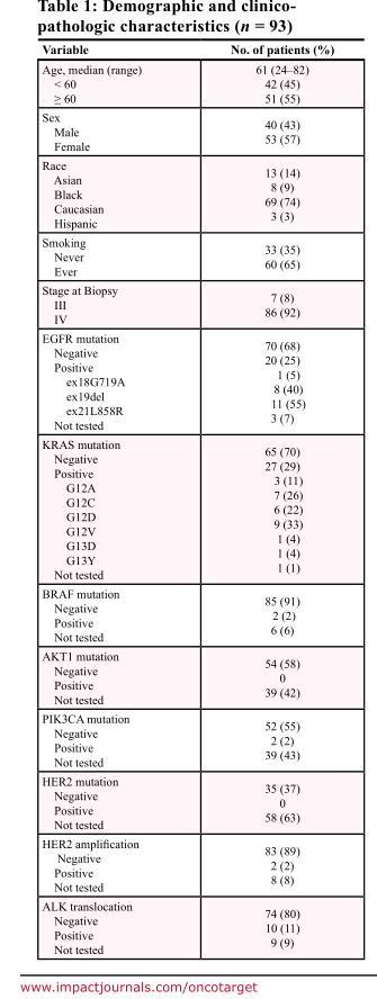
<table><thead><tr><td>Variable</td><td>No. of patients (%)</td></tr></thead><tbody><tr><td>Age, median (range) &lt; 60 ≥ 60</td><td>61 (24–82) 42 (45) 51 (55)</td></tr><tr><td>Sex Male Female</td><td>40 (43) 53 (57)</td></tr><tr><td>Race Asian Black Caucasian Hispanic</td><td>13 (14) 8 (9) 69 (74) 3 (3)</td></tr><tr><td>Smoking Never Ever</td><td>33 (35) 60 (65)</td></tr><tr><td>Stage at Biopsy III IV</td><td>7 (8) 86 (92)</td></tr><tr><td>EGFR mutation Negative Positive ex18G719A ex19del ex21L858R Not tested</td><td>70 (68) 20 (25) 1 (5) 8 (40) 11 (55) 3 (7)</td></tr><tr><td>KRAS mutation Negative Positive G12A G12C G12D G12V G13D G13Y Not tested</td><td>65 (70) 27 (29) 3 (11) 7 (26) 6 (22) 9 (33) 1 (4) 1 (4) 1 (1)</td></tr><tr><td>BRAF mutation Negative Positive Not tested</td><td>85 (91) 2 (2) 6 (6)</td></tr><tr><td>AKT1 mutation Negative Positive Not tested</td><td>54 (58) 0 39 (42)</td></tr><tr><td>PIK3CA mutation Negative Positive Not tested</td><td>52 (55) 2 (2) 39 (43)</td></tr><tr><td>HER2 mutation Negative Positive Not tested</td><td>35 (37) 0 58 (63)</td></tr><tr><td>HER2 amplification Negative Positive Not tested</td><td>83 (89) 2 (2) 8 (8)</td></tr><tr><td>ALK translocation Negative Positive Not tested</td><td>74 (80) 10 (11) 9 (9)</td></tr></tbody></table>